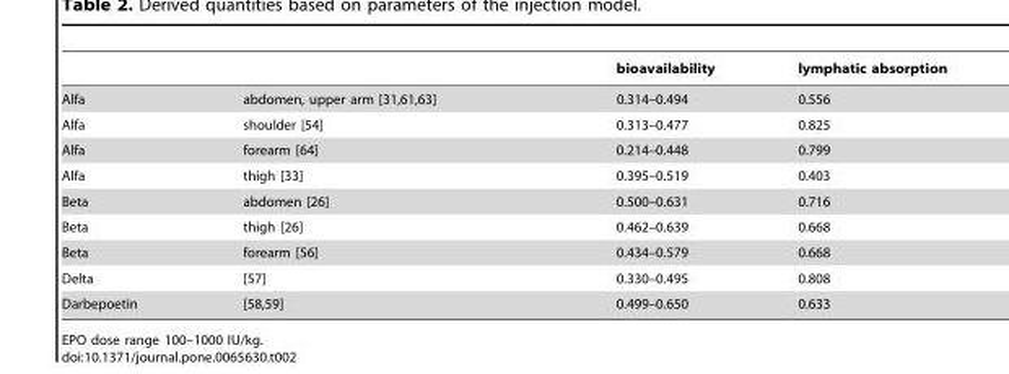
<table><thead><tr><td></td><td></td><td>bioavailability</td><td>lymphatic absorption</td></tr></thead><tbody><tr><td>Alfa</td><td>abdomen, upper arm [31,61,63]</td><td>0.314–0.494</td><td>0.556</td></tr><tr><td>Alfa</td><td>shoulder [54]</td><td>0.313–0.477</td><td>0.825</td></tr><tr><td>Alfa</td><td>forearm [64]</td><td>0.214–0.448</td><td>0.799</td></tr><tr><td>Alfa</td><td>thigh [33]</td><td>0.395–0.519</td><td>0.403</td></tr><tr><td>Beta</td><td>abdomen [26]</td><td>0.500–0.631</td><td>0.716</td></tr><tr><td>Beta</td><td>thigh [26]</td><td>0.462–0.639</td><td>0.668</td></tr><tr><td>Beta</td><td>forearm [56]</td><td>0.434–0.579</td><td>0.668</td></tr><tr><td>Delta</td><td>[57]</td><td>0.330–0.495</td><td>0.808</td></tr><tr><td>Darbepoetin</td><td>[58,59]</td><td>0.499–0.650</td><td>0.633</td></tr></tbody></table>